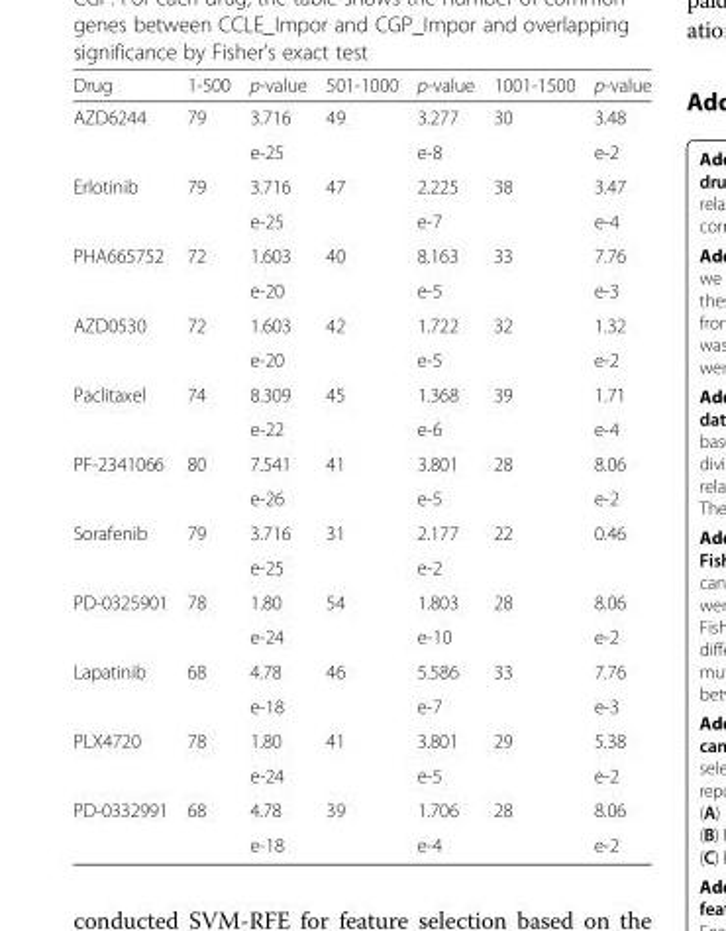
<table><thead><tr><td>Drug</td><td>1-500</td><td>p-value</td><td>501-1000</td><td>p-value</td><td>1001-1500</td><td>p-value</td></tr></thead><tbody><tr><td rowspan="2">AZD6244</td><td rowspan="2">79</td><td>3.716</td><td>49</td><td>3.277</td><td>30</td><td>3.48</td></tr><tr><td>e-25</td><td></td><td>e-8</td><td></td><td>e-2</td></tr><tr><td rowspan="2">Erlotinib</td><td rowspan="2">79</td><td>3.716</td><td>47</td><td>2.225</td><td>38</td><td>3.47</td></tr><tr><td>e-25</td><td></td><td>e-7</td><td></td><td>e-4</td></tr><tr><td rowspan="2">PHA665752</td><td rowspan="2">72</td><td>1.603</td><td>40</td><td>8.163</td><td>33</td><td>7.76</td></tr><tr><td>e-20</td><td></td><td>e-5</td><td></td><td>e-3</td></tr><tr><td rowspan="2">AZD0530</td><td rowspan="2">72</td><td>1.603</td><td>42</td><td>1.722</td><td>32</td><td>1.32</td></tr><tr><td>e-20</td><td></td><td>e-5</td><td></td><td>e-2</td></tr><tr><td rowspan="2">Paclitaxel</td><td rowspan="2">74</td><td>8.309</td><td>45</td><td>1.368</td><td>39</td><td>1.71</td></tr><tr><td>e-22</td><td></td><td>e-6</td><td></td><td>e-4</td></tr><tr><td rowspan="2">PF-2341066</td><td rowspan="2">80</td><td>7.541</td><td>41</td><td>3.801</td><td>28</td><td>8.06</td></tr><tr><td>e-26</td><td></td><td>e-5</td><td></td><td>e-2</td></tr><tr><td rowspan="2">Sorafenib</td><td rowspan="2">79</td><td>3.716</td><td>31</td><td>2.177</td><td>22</td><td>0.46</td></tr><tr><td>e-25</td><td></td><td>e-2</td><td></td><td></td></tr><tr><td rowspan="2">PD-0325901</td><td rowspan="2">78</td><td>1.80</td><td>54</td><td>1.803</td><td>28</td><td>8.06</td></tr><tr><td>e-24</td><td></td><td>e-10</td><td></td><td>e-2</td></tr><tr><td rowspan="2">Lapatinib</td><td rowspan="2">68</td><td>4.78</td><td>46</td><td>5.586</td><td>33</td><td>7.76</td></tr><tr><td>e-18</td><td></td><td>e-7</td><td></td><td>e-3</td></tr><tr><td rowspan="2">PLX4720</td><td rowspan="2">78</td><td>1.80</td><td>41</td><td>3.801</td><td>29</td><td>5.38</td></tr><tr><td>e-24</td><td></td><td>e-5</td><td></td><td>e-2</td></tr><tr><td rowspan="2">PD-0332991</td><td rowspan="2">68</td><td>4.78</td><td>39</td><td>1.706</td><td>28</td><td>8.06</td></tr><tr><td>e-18</td><td></td><td>e-4</td><td></td><td>e-2</td></tr></tbody></table>